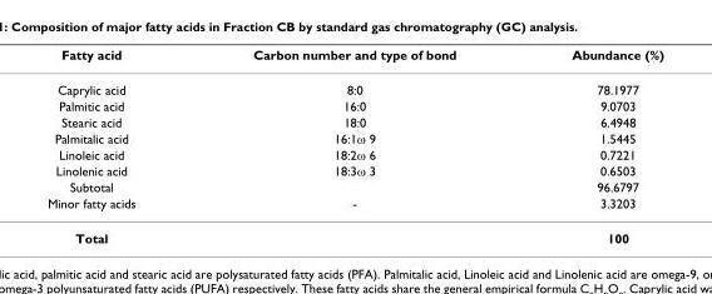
<table><thead><tr><td>Fatty acid</td><td>Carbon number and type of bond</td><td>Abundance (%)</td></tr></thead><tbody><tr><td>Caprylic acid</td><td>8:0</td><td>78.1977</td></tr><tr><td>Palmitic acid</td><td>16:0</td><td>9.0703</td></tr><tr><td>Stearic acid</td><td>18:0</td><td>6.4948</td></tr><tr><td>Palmitalic acid</td><td>16:1ω 9</td><td>1.5445</td></tr><tr><td>Linoleic acid</td><td>18:2ω 6</td><td>0.7221</td></tr><tr><td>Linolenic acid</td><td>18:3ω 3</td><td>0.6503</td></tr><tr><td>Subtotal</td><td></td><td>96.6797</td></tr><tr><td>Minor fatty acids</td><td>-</td><td>3.3203</td></tr><tr><td>Total</td><td></td><td>100</td></tr></tbody></table>